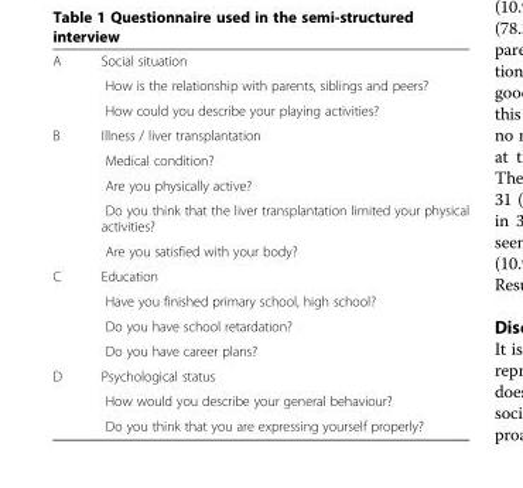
<table><tbody><tr><td rowspan="3">A</td><td>Social situation</td></tr><tr><td>How is the relationship with parents, siblings and peers?</td></tr><tr><td>How could you describe your playing activities?</td></tr><tr><td rowspan="5">B</td><td>Illness / liver transplantation</td></tr><tr><td>Medical condition?</td></tr><tr><td>Are you physically active?</td></tr><tr><td>Do you think that the liver transplantation limited your physical activities?</td></tr><tr><td>Are you satisfied with your body?</td></tr><tr><td rowspan="4">C</td><td>Education</td></tr><tr><td>Have you finished primary school, high school?</td></tr><tr><td>Do you have school retardation?</td></tr><tr><td>Do you have career plans?</td></tr><tr><td rowspan="3">D</td><td>Psychological status</td></tr><tr><td>How would you describe your general behaviour?</td></tr><tr><td>Do you think that you are expressing yourself properly?</td></tr></tbody></table>